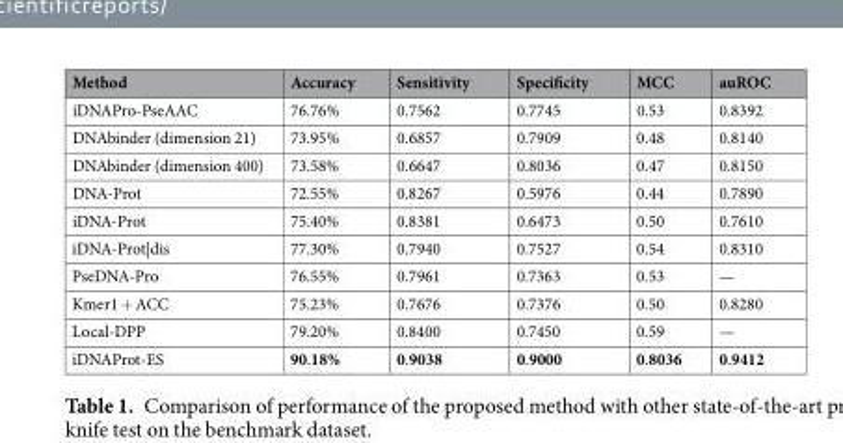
<table><thead><tr><td>Method</td><td>Accuracy</td><td>Sensitivity</td><td>Specificity</td><td>MCC</td><td>auROC</td></tr></thead><tbody><tr><td>iDNAPro-PseAAC</td><td>76.76%</td><td>0.7562</td><td>0.7745</td><td>0.53</td><td>0.8392</td></tr><tr><td>DNAbinder (dimension 21)</td><td>73.95%</td><td>0.6857</td><td>0.7909</td><td>0.48</td><td>0.8140</td></tr><tr><td>DNAbinder (dimension 400)</td><td>73.58%</td><td>0.6647</td><td>0.8036</td><td>0.47</td><td>0.8150</td></tr><tr><td>DNA-Prot</td><td>72.55%</td><td>0.8267</td><td>0.5976</td><td>0.44</td><td>0.7890</td></tr><tr><td>iDNA-Prot</td><td>75.40%</td><td>0.8381</td><td>0.6473</td><td>0.50</td><td>0.7610</td></tr><tr><td>iDNA-Prot|dis</td><td>77.30%</td><td>0.7940</td><td>0.7527</td><td>0.54</td><td>0.8310</td></tr><tr><td>PseDNA-Pro</td><td>76.55%</td><td>0.7961</td><td>0.7363</td><td>0.53</td><td>—</td></tr><tr><td>Kmer1 + ACC</td><td>75.23%</td><td>0.7676</td><td>0.7376</td><td>0.50</td><td>0.8280</td></tr><tr><td>Local-DPP</td><td>79.20%</td><td>0.8400</td><td>0.7450</td><td>0.59</td><td>—</td></tr><tr><td>iDNAProt-ES</td><td>90.18%</td><td>0.9038</td><td>0.9000</td><td>0.8036</td><td>0.9412</td></tr></tbody></table>